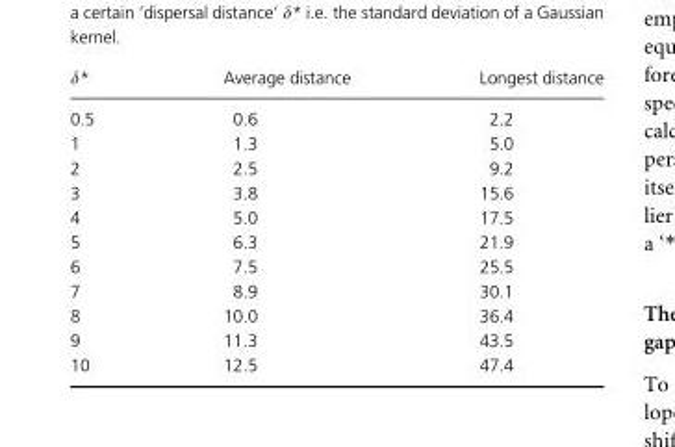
<table><thead><tr><td>δ*</td><td>Average distance</td><td>Longest distance</td></tr></thead><tbody><tr><td>0.5</td><td>0.6</td><td>2.2</td></tr><tr><td>1</td><td>1.3</td><td>5.0</td></tr><tr><td>2</td><td>2.5</td><td>9.2</td></tr><tr><td>3</td><td>3.8</td><td>15.6</td></tr><tr><td>4</td><td>5.0</td><td>17.5</td></tr><tr><td>5</td><td>6.3</td><td>21.9</td></tr><tr><td>6</td><td>7.5</td><td>25.5</td></tr><tr><td>7</td><td>8.9</td><td>30.1</td></tr><tr><td>8</td><td>10.0</td><td>36.4</td></tr><tr><td>9</td><td>11.3</td><td>43.5</td></tr><tr><td>10</td><td>12.5</td><td>47.4</td></tr></tbody></table>